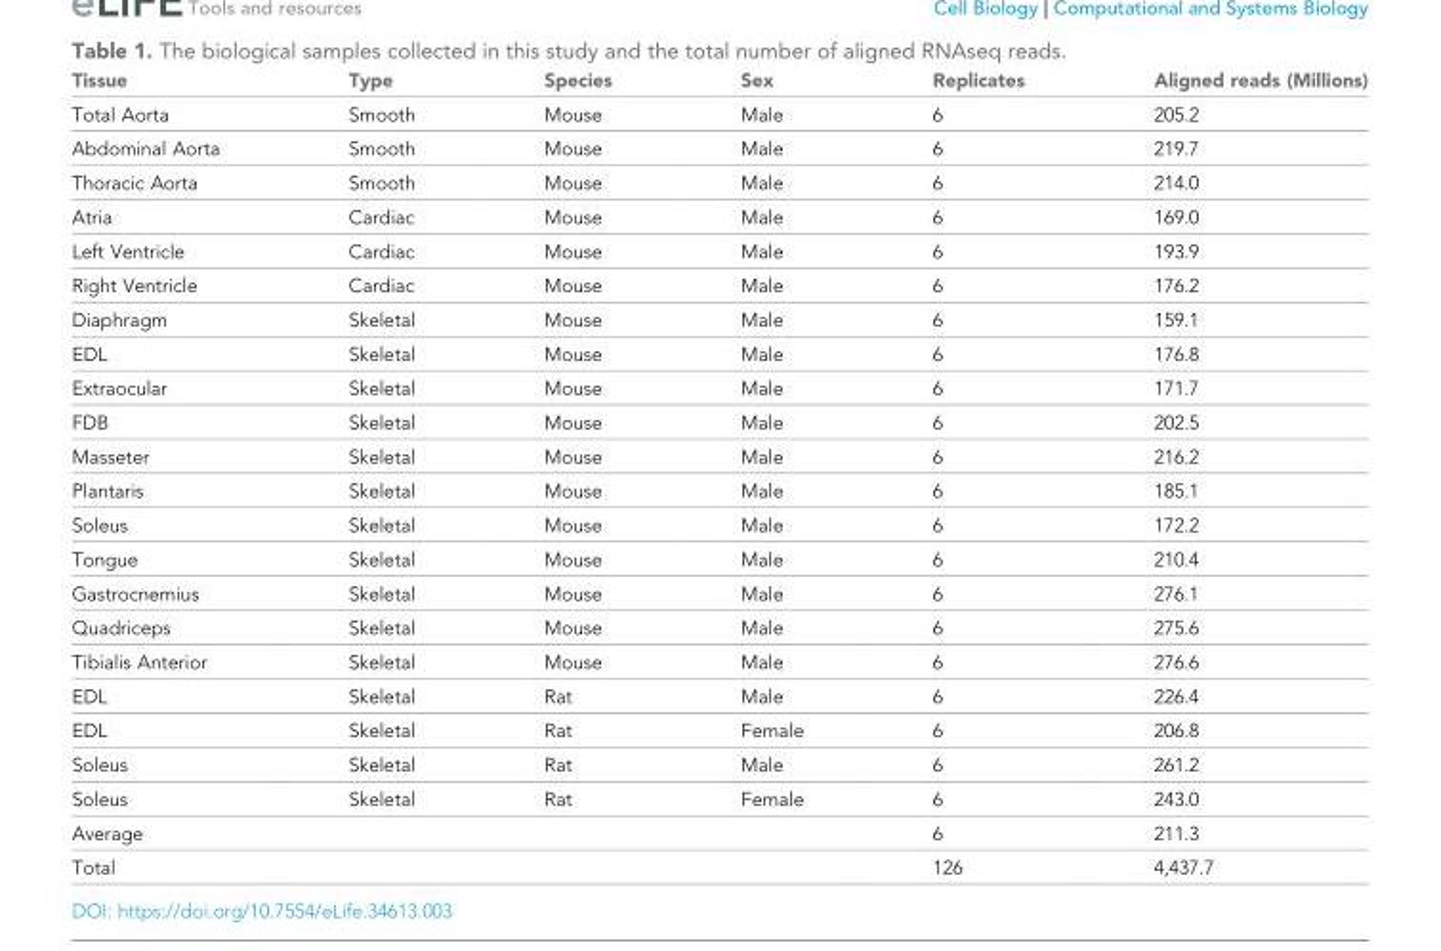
<table><thead><tr><td>Tissue</td><td>Type</td><td>Species</td><td>Sex</td><td>Replicates</td><td>Aligned reads (Millions)</td></tr></thead><tbody><tr><td>Total Aorta</td><td>Smooth</td><td>Mouse</td><td>Male</td><td>6</td><td>205.2</td></tr><tr><td>Abdominal Aorta</td><td>Smooth</td><td>Mouse</td><td>Male</td><td>6</td><td>219.7</td></tr><tr><td>Thoracic Aorta</td><td>Smooth</td><td>Mouse</td><td>Male</td><td>6</td><td>214.0</td></tr><tr><td>Atria</td><td>Cardiac</td><td>Mouse</td><td>Male</td><td>6</td><td>169.0</td></tr><tr><td>Left Ventricle</td><td>Cardiac</td><td>Mouse</td><td>Male</td><td>6</td><td>193.9</td></tr><tr><td>Right Ventricle</td><td>Cardiac</td><td>Mouse</td><td>Male</td><td>6</td><td>176.2</td></tr><tr><td>Diaphragm</td><td>Skeletal</td><td>Mouse</td><td>Male</td><td>6</td><td>159.1</td></tr><tr><td>EDL</td><td>Skeletal</td><td>Mouse</td><td>Male</td><td>6</td><td>176.8</td></tr><tr><td>Extraocular</td><td>Skeletal</td><td>Mouse</td><td>Male</td><td>6</td><td>171.7</td></tr><tr><td>FDB</td><td>Skeletal</td><td>Mouse</td><td>Male</td><td>6</td><td>202.5</td></tr><tr><td>Masseter</td><td>Skeletal</td><td>Mouse</td><td>Male</td><td>6</td><td>216.2</td></tr><tr><td>Plantaris</td><td>Skeletal</td><td>Mouse</td><td>Male</td><td>6</td><td>185.1</td></tr><tr><td>Soleus</td><td>Skeletal</td><td>Mouse</td><td>Male</td><td>6</td><td>172.2</td></tr><tr><td>Tongue</td><td>Skeletal</td><td>Mouse</td><td>Male</td><td>6</td><td>210.4</td></tr><tr><td>Gastrocnemius</td><td>Skeletal</td><td>Mouse</td><td>Male</td><td>6</td><td>276.1</td></tr><tr><td>Quadriceps</td><td>Skeletal</td><td>Mouse</td><td>Male</td><td>6</td><td>275.6</td></tr><tr><td>Tibialis Anterior</td><td>Skeletal</td><td>Mouse</td><td>Male</td><td>6</td><td>276.6</td></tr><tr><td>EDL</td><td>Skeletal</td><td>Rat</td><td>Male</td><td>6</td><td>226.4</td></tr><tr><td>EDL</td><td>Skeletal</td><td>Rat</td><td>Female</td><td>6</td><td>206.8</td></tr><tr><td>Soleus</td><td>Skeletal</td><td>Rat</td><td>Male</td><td>6</td><td>261.2</td></tr><tr><td>Soleus</td><td>Skeletal</td><td>Rat</td><td>Female</td><td>6</td><td>243.0</td></tr><tr><td>Average</td><td></td><td></td><td></td><td>6</td><td>211.3</td></tr><tr><td>Total</td><td></td><td></td><td></td><td>126</td><td>4,437.7</td></tr></tbody></table>